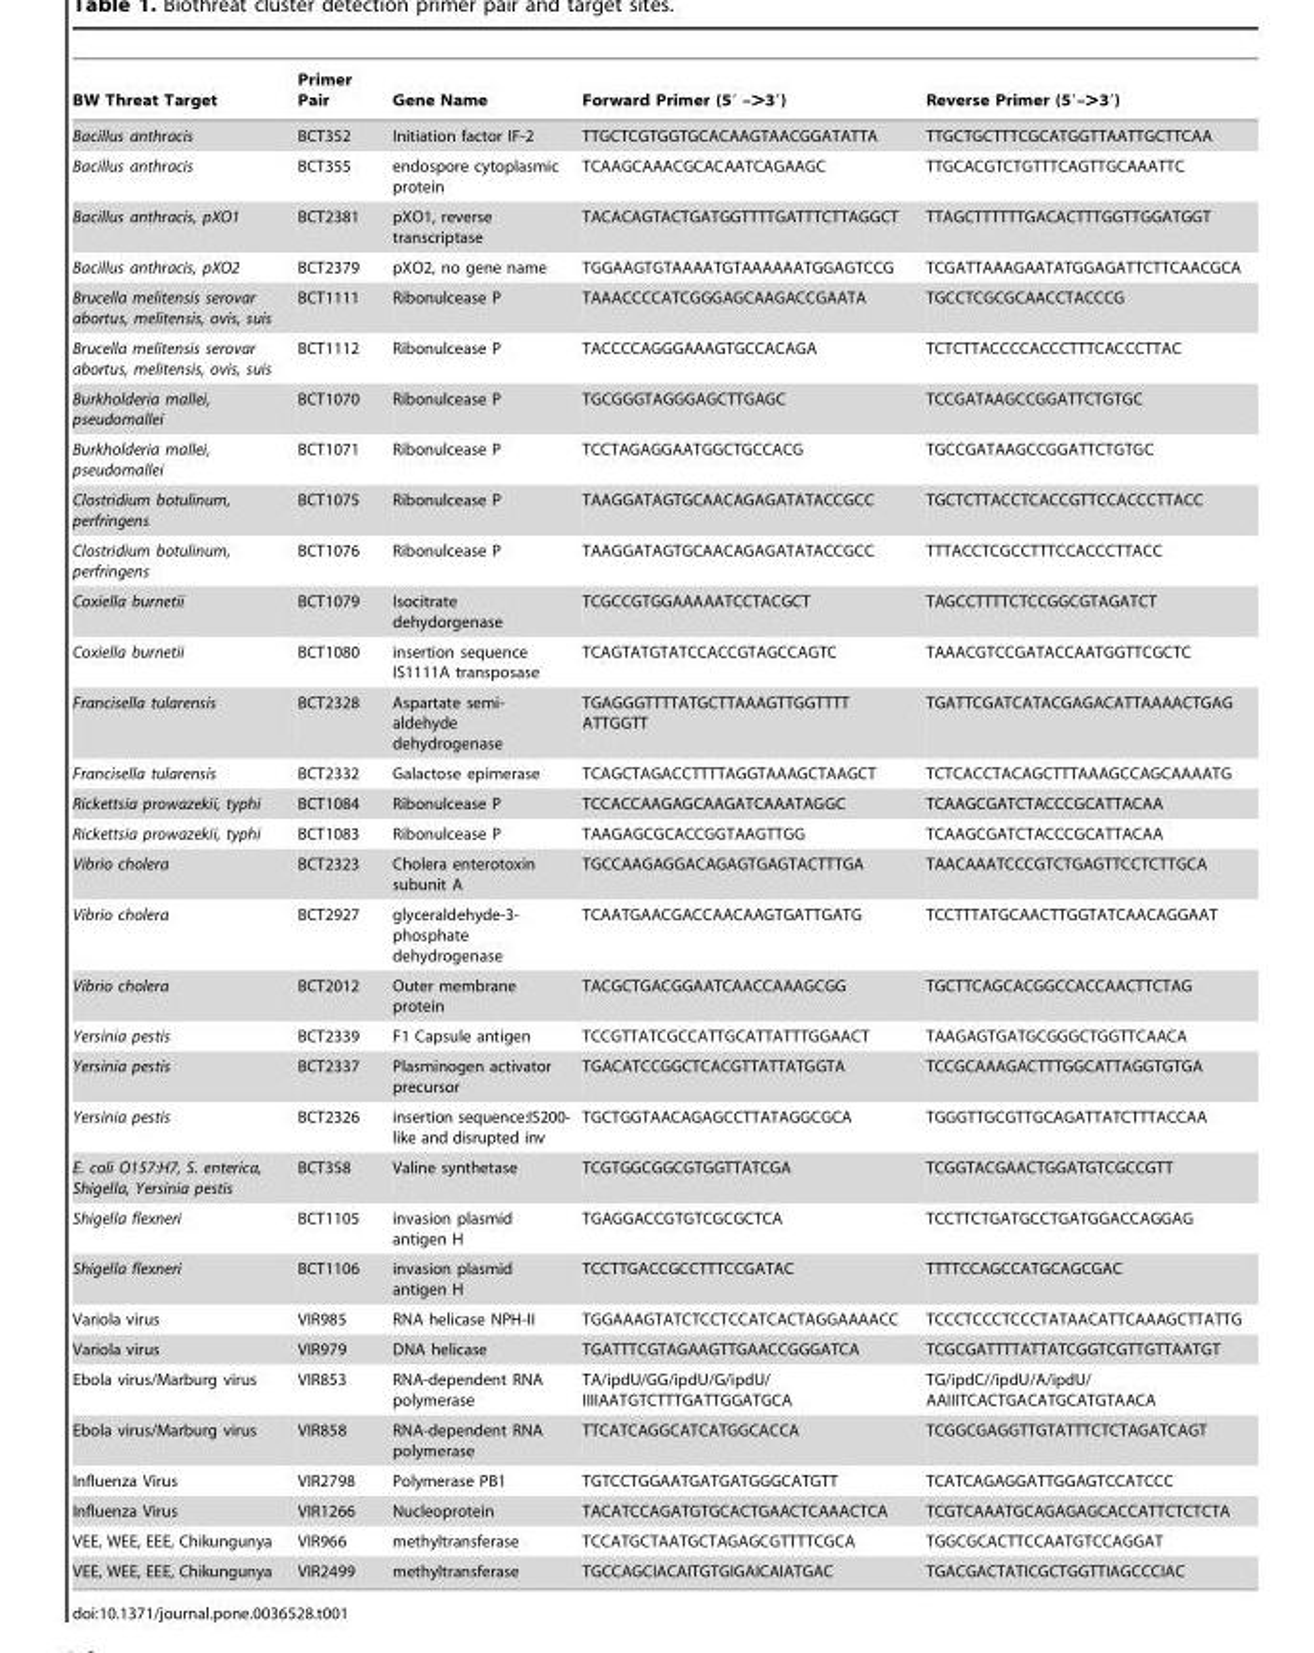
<table><thead><tr><td>BW Threat Target</td><td>Primer Pair</td><td>Gene Name</td><td>Forward Primer (5′ –&gt;3′)</td><td>Reverse Primer (5′–&gt;3′)</td></tr></thead><tbody><tr><td>Bacillus anthracis</td><td>BCT352</td><td>Initiation factor IF-2</td><td>TTGCTCGTGGTGCACAAGTAACGGATATTA</td><td>TTGCTGCTTTCGCATGGTTAATTGCTTCAA</td></tr><tr><td>Bacillus anthracis</td><td>BCT355</td><td>endospore cytoplasmic protein</td><td>TCAAGCAAACGCACAATCAGAAGC</td><td>TTGCACGTCTGTTTCAGTTGCAAATTC</td></tr><tr><td>Bacillus anthracis, pXO1</td><td>BCT2381</td><td>pXO1, reverse transcriptase</td><td>TACACAGTACTGATGGTTTTGATTTCTTAGGCT</td><td>TTAGCTTTTTTGACACTTTGGTTGGATGGT</td></tr><tr><td>Bacillus anthracis, pXO2</td><td>BCT2379</td><td>pXO2, no gene name</td><td>TGGAAGTGTAAAATGTAAAAAATGGAGTCCG</td><td>TCGATTAAAGAATATGGAGATTCTTCAACGCA</td></tr><tr><td>Brucella melitensis serovar abortus, melitensis, ovis, suis</td><td>BCT1111</td><td>Ribonulcease P</td><td>TAAACCCCATCGGGAGCAAGACCGAATA</td><td>TGCCTCGCGCAACCTACCCG</td></tr><tr><td>Brucella melitensis serovar abortus, melitensis, ovis, suis</td><td>BCT1112</td><td>Ribonulcease P</td><td>TACCCCAGGGAAAGTGCCACAGA</td><td>TCTCTTACCCCACCCTTTCACCCTTAC</td></tr><tr><td>Burkholderia mallei, pseudomallei</td><td>BCT1070</td><td>Ribonulcease P</td><td>TGCGGGTAGGGAGCTTGAGC</td><td>TCCGATAAGCCGGATTCTGTGC</td></tr><tr><td>Burkholderia mallei, pseudomallei</td><td>BCT1071</td><td>Ribonulcease P</td><td>TCCTAGAGGAATGGCTGCCACG</td><td>TGCCGATAAGCCGGATTCTGTGC</td></tr><tr><td>Clostridium botulinum, perfringens</td><td>BCT1075</td><td>Ribonulcease P</td><td>TAAGGATAGTGCAACAGAGATATACCGCC</td><td>TGCTCTTACCTCACCGTTCCACCCTTACC</td></tr><tr><td>Clostridium botulinum, perfringens</td><td>BCT1076</td><td>Ribonulcease P</td><td>TAAGGATAGTGCAACAGAGATATACCGCC</td><td>TTTACCTCGCCTTTCCACCCTTACC</td></tr><tr><td>Coxiella burnetii</td><td>BCT1079</td><td>Isocitrate dehydorgenase</td><td>TCGCCGTGGAAAAATCCTACGCT</td><td>TAGCCTTTTCTCCGGCGTAGATCT</td></tr><tr><td>Coxiella burnetii</td><td>BCT1080</td><td>insertion sequence IS1111A transposase</td><td>TCAGTATGTATCCACCGTAGCCAGTC</td><td>TAAACGTCCGATACCAATGGTTCGCTC</td></tr><tr><td>Francisella tularensis</td><td>BCT2328</td><td>Aspartate semi- aldehyde dehydrogenase</td><td>TGAGGGTTTTATGCTTAAAGTTGGTTTT ATTGGTT</td><td>TGATTCGATCATACGAGACATTAAAACTGAG</td></tr><tr><td>Francisella tularensis</td><td>BCT2332</td><td>Galactose epimerase</td><td>TCAGCTAGACCTTTTAGGTAAAGCTAAGCT</td><td>TCTCACCTACAGCTTTAAAGCCAGCAAAATG</td></tr><tr><td>Rickettsia prowazekii, typhi</td><td>BCT1084</td><td>Ribonulcease P</td><td>TCCACCAAGAGCAAGATCAAATAGGC</td><td>TCAAGCGATCTACCCGCATTACAA</td></tr><tr><td>Rickettsia prowazekii, typhi</td><td>BCT1083</td><td>Ribonulcease P</td><td>TAAGAGCGCACCGGTAAGTTGG</td><td>TCAAGCGATCTACCCGCATTACAA</td></tr><tr><td>Vibrio cholera</td><td>BCT2323</td><td>Cholera enterotoxin subunit A</td><td>TGCCAAGAGGACAGAGTGAGTACTTTGA</td><td>TAACAAATCCCGTCTGAGTTCCTCTTGCA</td></tr><tr><td>Vibrio cholera</td><td>BCT2927</td><td>glyceraldehyde-3- phosphate dehydrogenase</td><td>TCAATGAACGACCAACAAGTGATTGATG</td><td>TCCTTTATGCAACTTGGTATCAACAGGAAT</td></tr><tr><td>Vibrio cholera</td><td>BCT2012</td><td>Outer membrane protein</td><td>TACGCTGACGGAATCAACCAAAGCGG</td><td>TGCTTCAGCACGGCCACCAACTTCTAG</td></tr><tr><td>Yersinia pestis</td><td>BCT2339</td><td>F1 Capsule antigen</td><td>TCCGTTATCGCCATTGCATTATTTGGAACT</td><td>TAAGAGTGATGCGGGCTGGTTCAACA</td></tr><tr><td>Yersinia pestis</td><td>BCT2337</td><td>Plasminogen activator precursor</td><td>TGACATCCGGCTCACGTTATTATGGTA</td><td>TCCGCAAAGACTTTGGCATTAGGTGTGA</td></tr><tr><td>Yersinia pestis</td><td>BCT2326</td><td>insertion sequence:IS200- like and disrupted inv</td><td>TGCTGGTAACAGAGCCTTATAGGCGCA</td><td>TGGGTTGCGTTGCAGATTATCTTTACCAA</td></tr><tr><td>E. coli O157:H7, S. enterica, Shigella, Yersinia pestis</td><td>BCT358</td><td>Valine synthetase</td><td>TCGTGGCGGCGTGGTTATCGA</td><td>TCGGTACGAACTGGATGTCGCCGTT</td></tr><tr><td>Shigella flexneri</td><td>BCT1105</td><td>invasion plasmid antigen H</td><td>TGAGGACCGTGTCGCGCTCA</td><td>TCCTTCTGATGCCTGATGGACCAGGAG</td></tr><tr><td>Shigella flexneri</td><td>BCT1106</td><td>invasion plasmid antigen H</td><td>TCCTTGACCGCCTTTCCGATAC</td><td>TTTTCCAGCCATGCAGCGAC</td></tr><tr><td>Variola virus</td><td>VIR985</td><td>RNA helicase NPH-II</td><td>TGGAAAGTATCTCCTCCATCACTAGGAAAACC</td><td>TCCCTCCCTCCCTATAACATTCAAAGCTTATTG</td></tr><tr><td>Variola virus</td><td>VIR979</td><td>DNA helicase</td><td>TGATTTCGTAGAAGTTGAACCGGGATCA</td><td>TCGCGATTTTATTATCGGTCGTTGTTAATGT</td></tr><tr><td>Ebola virus/Marburg virus</td><td>VIR853</td><td>RNA-dependent RNA polymerase</td><td>TA/ipdU/GG/ipdU/G/ipdU/ IIIIAATGTCTTTGATTGGATGCA</td><td>TG/ipdC//ipdU/A/ipdU/ AAIIITCACTGACATGCATGTAACA</td></tr><tr><td>Ebola virus/Marburg virus</td><td>VIR858</td><td>RNA-dependent RNA polymerase</td><td>TTCATCAGGCATCATGGCACCA</td><td>TCGGCGAGGTTGTATTTCTCTAGATCAGT</td></tr><tr><td>Influenza Virus</td><td>VIR2798</td><td>Polymerase PB1</td><td>TGTCCTGGAATGATGATGGGCATGTT</td><td>TCATCAGAGGATTGGAGTCCATCCC</td></tr><tr><td>Influenza Virus</td><td>VIR1266</td><td>Nucleoprotein</td><td>TACATCCAGATGTGCACTGAACTCAAACTCA</td><td>TCGTCAAATGCAGAGAGCACCATTCTCTCTA</td></tr><tr><td>VEE, WEE, EEE, Chikungunya</td><td>VIR966</td><td>methyltransferase</td><td>TCCATGCTAATGCTAGAGCGTTTTCGCA</td><td>TGGCGCACTTCCAATGTCCAGGAT</td></tr><tr><td>VEE, WEE, EEE, Chikungunya</td><td>VIR2499</td><td>methyltransferase</td><td>TGCCAGCIACAITGTGIGAICAIATGAC</td><td>TGACGACTATICGCTGGTTIAGCCCIAC</td></tr></tbody></table>